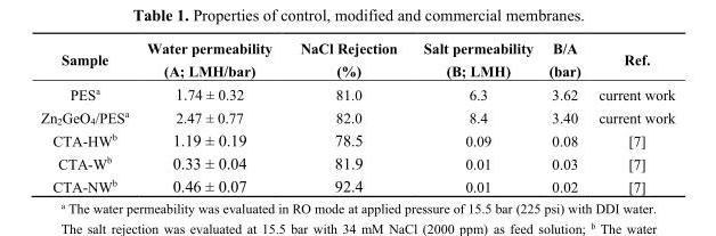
<table><thead><tr><td>Sample</td><td>Water permeability (A; LMH/bar)</td><td>NaCl Rejection (%)</td><td>Salt permeability (B; LMH)</td><td>B/A (bar)</td><td>Ref.</td></tr></thead><tbody><tr><td>PES<sup>a</sup></td><td>1.74 ± 0.32</td><td>81.0</td><td>6.3</td><td>3.62</td><td>current work</td></tr><tr><td>Zn<sub>2</sub>GeO<sub>4</sub>/PES<sup>a</sup></td><td>2.47 ± 0.77</td><td>82.0</td><td>8.4</td><td>3.40</td><td>current work</td></tr><tr><td>CTA-HW<sup>b</sup></td><td>1.19 ± 0.19</td><td>78.5</td><td>0.09</td><td>0.08</td><td>[7]</td></tr><tr><td>CTA-W<sup>b</sup></td><td>0.33 ± 0.04</td><td>81.9</td><td>0.01</td><td>0.03</td><td>[7]</td></tr><tr><td>CTA-NW<sup>b</sup></td><td>0.46 ± 0.07</td><td>92.4</td><td>0.01</td><td>0.02</td><td>[7]</td></tr></tbody></table>